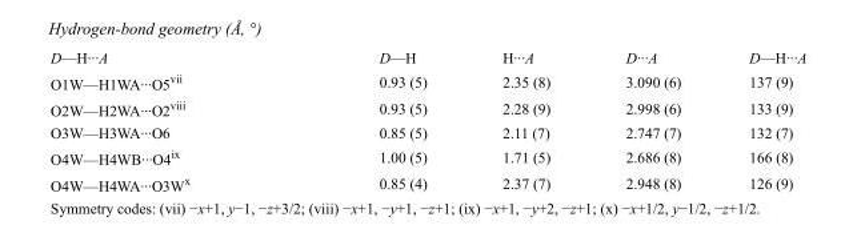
<table><tbody><tr><td>D—H···A</td><td>D—H</td><td>H···A</td><td>D···A</td><td>D—H···A</td></tr><tr><td>O1W—H1WA···O5<sup>vii</sup></td><td>0.93 (5)</td><td>2.35 (8)</td><td>3.090 (6)</td><td>137 (9)</td></tr><tr><td>O2W—H2WA···O2<sup>viii</sup></td><td>0.93 (5)</td><td>2.28 (9)</td><td>2.998 (6)</td><td>133 (9)</td></tr><tr><td>O3W—H3WA···O6</td><td>0.85 (5)</td><td>2.11 (7)</td><td>2.747 (7)</td><td>132 (7)</td></tr><tr><td>O4W—H4WB···O4<sup>ix</sup></td><td>1.00 (5)</td><td>1.71 (5)</td><td>2.686 (8)</td><td>166 (8)</td></tr><tr><td>O4W—H4WA···O3W<sup>x</sup></td><td>0.85 (4)</td><td>2.37 (7)</td><td>2.948 (8)</td><td>126 (9)</td></tr></tbody></table>